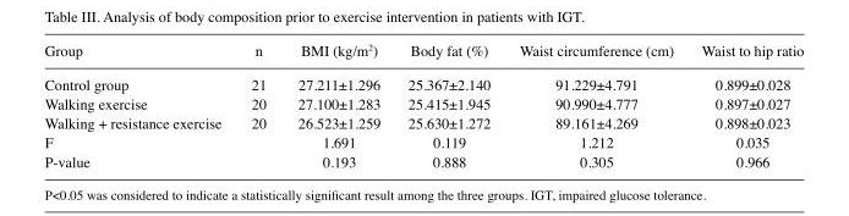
<table><thead><tr><td>Group</td><td>n</td><td>BMI (kg/m<sup>2</sup>)</td><td>Body fat (﹪)</td><td>Waist circumference (cm)</td><td>Waist to hip ratio</td></tr></thead><tbody><tr><td>Control group</td><td>21</td><td>27.211±1.296</td><td>25.367±2.140</td><td>91.229±4.791</td><td>0.899±0.028</td></tr><tr><td>Walking exercise</td><td>20</td><td>27.100±1.283</td><td>25.415±1.945</td><td>90.990±4.777</td><td>0.897±0.027</td></tr><tr><td>Walking + resistance exercise</td><td>20</td><td>26.523±1.259</td><td>25.630±1.272</td><td>89.161±4.269</td><td>0.898±0.023</td></tr><tr><td>F</td><td></td><td>1.691</td><td>0.119</td><td>1.212</td><td>0.035</td></tr><tr><td>P-value</td><td></td><td>0.193</td><td>0.888</td><td>0.305</td><td>0.966</td></tr></tbody></table>